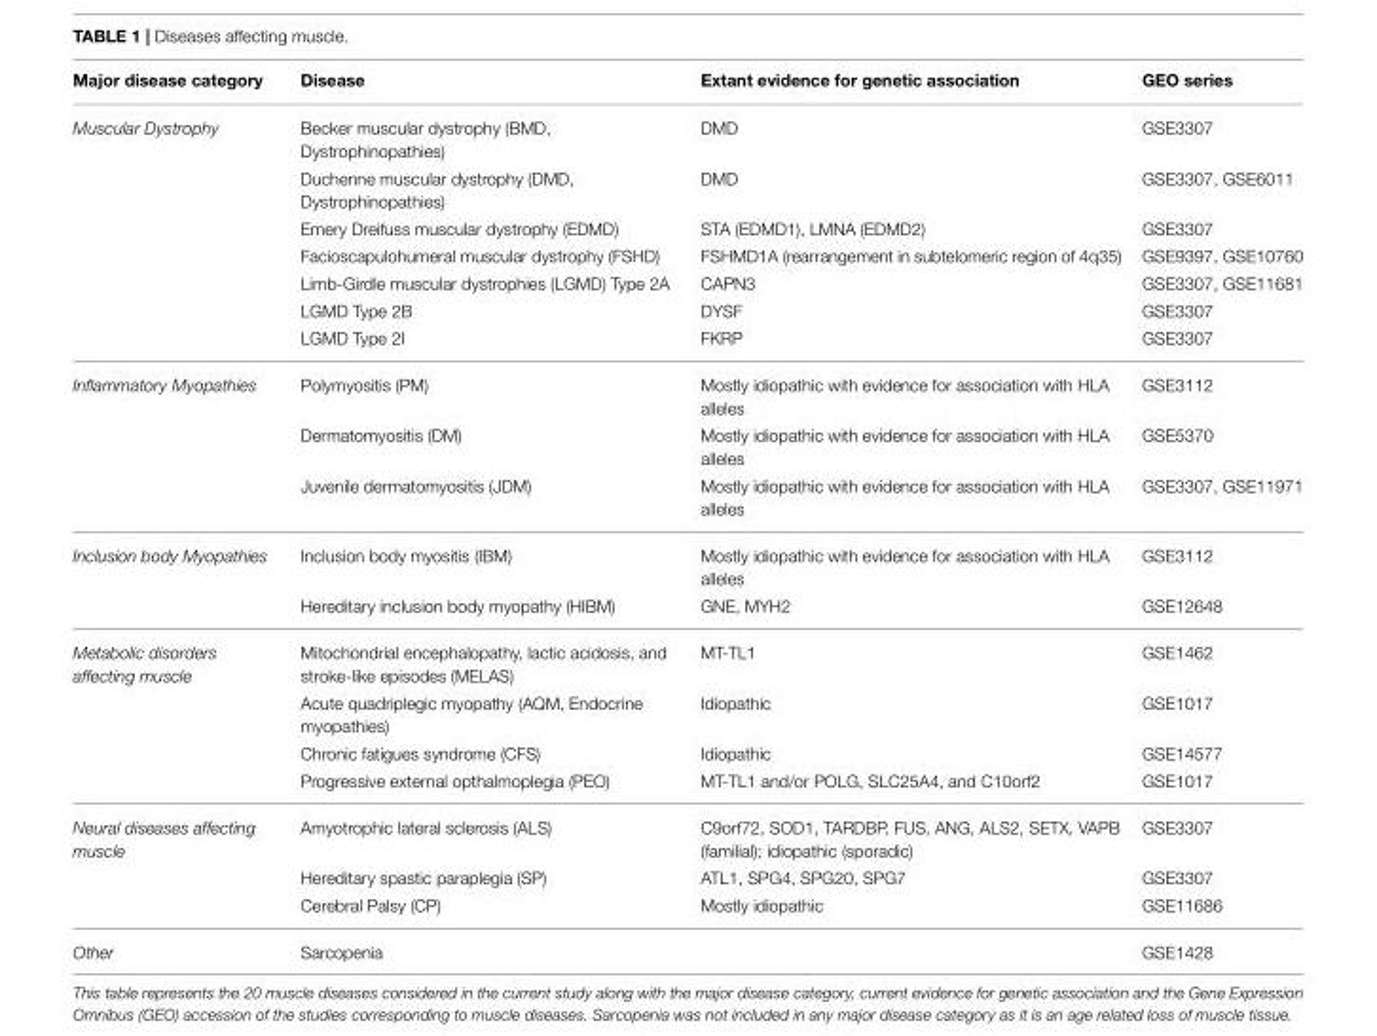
<table><thead><tr><td>Major disease category</td><td>Disease</td><td>Extant evidence for genetic association</td><td>GEO series</td></tr></thead><tbody><tr><td rowspan="7">Muscular Dystrophy</td><td>Becker muscular dystrophy (BMD, Dystrophinopathies)</td><td>DMD</td><td>GSE3307</td></tr><tr><td>Duchenne muscular dystrophy (DMD, Dystrophinopathies)</td><td>DMD</td><td>GSE3307, GSE6011</td></tr><tr><td>Emery Dreifuss muscular dystrophy (EDMD)</td><td>STA (EDMD1), LMNA (EDMD2)</td><td>GSE3307</td></tr><tr><td>Facioscapulohumeral muscular dystrophy (FSHD)</td><td>FSHMD1A (rearrangement in subtelomeric region of 4q35)</td><td>GSE9397, GSE10760</td></tr><tr><td>Limb-Girdle muscular dystrophies (LGMD) Type 2A</td><td>CAPN3</td><td>GSE3307, GSE11681</td></tr><tr><td>LGMD Type 2B</td><td>DYSF</td><td>GSE3307</td></tr><tr><td>LGMD Type 2I</td><td>FKRP</td><td>GSE3307</td></tr><tr><td rowspan="3">Inflammatory Myopathies</td><td>Polymyositis (PM)</td><td>Mostly idiopathic with evidence for association with HLA alleles</td><td>GSE3112</td></tr><tr><td>Dermatomyositis (DM)</td><td>Mostly idiopathic with evidence for association with HLA alleles</td><td>GSE5370</td></tr><tr><td>Juvenile dermatomyositis (JDM)</td><td>Mostly idiopathic with evidence for association with HLA alleles</td><td>GSE3307, GSE11971</td></tr><tr><td rowspan="2">Inclusion body Myopathies</td><td>Inclusion body myositis (IBM)</td><td>Mostly idiopathic with evidence for association with HLA alleles</td><td>GSE3112</td></tr><tr><td>Hereditary inclusion body myopathy (HIBM)</td><td>GNE, MYH2</td><td>GSE12648</td></tr><tr><td rowspan="4">Metabolic disorders affecting muscle</td><td>Mitochondrial encephalopathy, lactic acidosis, and stroke-like episodes (MELAS)</td><td>MT-TL1</td><td>GSE1462</td></tr><tr><td>Acute quadriplegic myopathy (AQM, Endocrine myopathies)</td><td>Idiopathic</td><td>GSE1017</td></tr><tr><td>Chronic fatigues syndrome (CFS)</td><td>Idiopathic</td><td>GSE14577</td></tr><tr><td>Progressive external opthalmoplegia (PEO)</td><td>MT-TL1 and/or POLG, SLC25A4, and C10orf2</td><td>GSE1017</td></tr><tr><td rowspan="3">Neural diseases affecting muscle</td><td>Amyotrophic lateral sclerosis (ALS)</td><td>C9orf72, SOD1, TARDBP, FUS, ANG, ALS2, SETX, VAPB (familial); idiopathic (sporadic)</td><td>GSE3307</td></tr><tr><td>Hereditary spastic paraplegia (SP)</td><td>ATL1, SPG4, SPG20, SPG7</td><td>GSE3307</td></tr><tr><td>Cerebral Palsy (CP)</td><td>Mostly idiopathic</td><td>GSE11686</td></tr><tr><td>Other</td><td>Sarcopenia</td><td></td><td>GSE1428</td></tr></tbody></table>